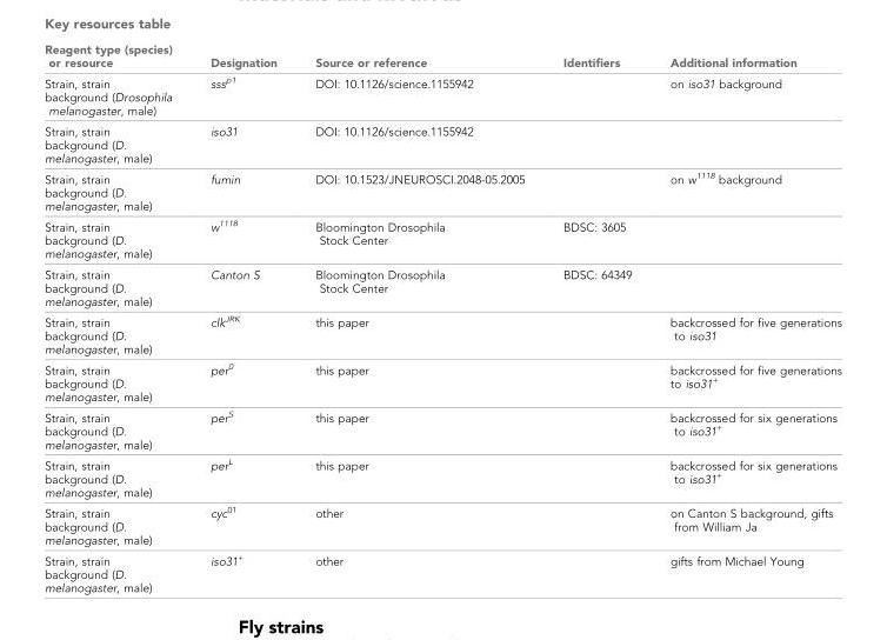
<table><thead><tr><td>Reagent type (species) or resource</td><td>Designation</td><td>Source or reference</td><td>Identifiers</td><td>Additional information</td></tr></thead><tbody><tr><td>Strain, strain background (Drosophila melanogaster, male)</td><td>sss<sup>p1</sup></td><td>DOI: 10.1126/science.1155942</td><td></td><td>on iso31 background</td></tr><tr><td>Strain, strain background (D. melanogaster, male)</td><td>iso31</td><td>DOI: 10.1126/science.1155942</td><td></td><td></td></tr><tr><td>Strain, strain background (D. melanogaster, male)</td><td>fumin</td><td>DOI: 10.1523/JNEUROSCI.2048-05.2005</td><td></td><td>on w<sup>1118</sup> background</td></tr><tr><td>Strain, strain background (D. melanogaster, male)</td><td>w<sup>1118</sup></td><td>Bloomington Drosophila Stock Center</td><td>BDSC: 3605</td><td></td></tr><tr><td>Strain, strain background (D. melanogaster, male)</td><td>Canton S</td><td>Bloomington Drosophila Stock Center</td><td>BDSC: 64349</td><td></td></tr><tr><td>Strain, strain background (D. melanogaster, male)</td><td>clk<sup>JRK</sup></td><td>this paper</td><td></td><td>backcrossed for five generations to iso31</td></tr><tr><td>Strain, strain background (D. melanogaster, male)</td><td>per<sup>0</sup></td><td>this paper</td><td></td><td>backcrossed for five generations to iso31<sup>+</sup></td></tr><tr><td>Strain, strain background (D. melanogaster, male)</td><td>per<sup>S</sup></td><td>this paper</td><td></td><td>backcrossed for six generations to iso31<sup>+</sup></td></tr><tr><td>Strain, strain background (D. melanogaster, male)</td><td>per<sup>L</sup></td><td>this paper</td><td></td><td>backcrossed for six generations to iso31<sup>+</sup></td></tr><tr><td>Strain, strain background (D. melanogaster, male)</td><td>cyc<sup>01</sup></td><td>other</td><td></td><td>on Canton S background, gifts from William Ja</td></tr><tr><td>Strain, strain background (D. melanogaster, male)</td><td>iso31<sup>+</sup></td><td>other</td><td></td><td>gifts from Michael Young</td></tr></tbody></table>